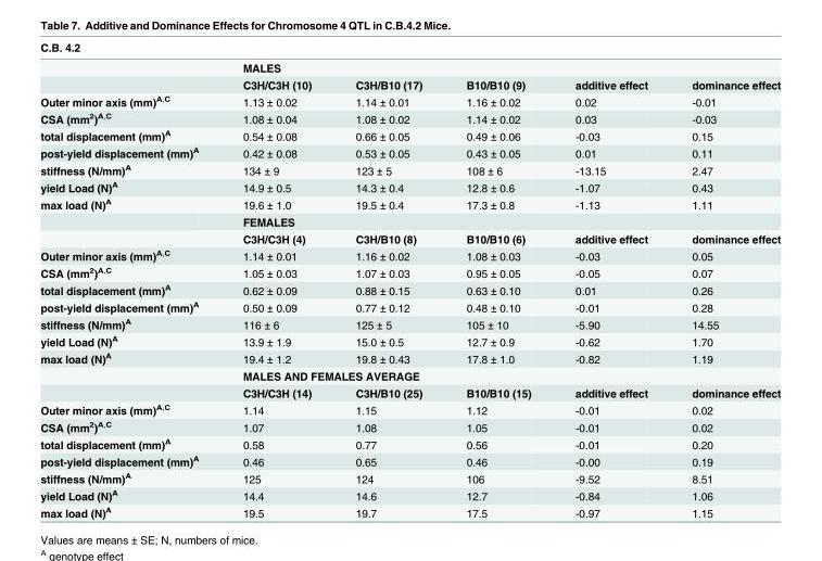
<table><thead><tr><td colspan="6">C.B. 4.2</td></tr><tr><td rowspan="2"></td><td colspan="5">MALES</td></tr><tr><td>C3H/C3H (10)</td><td>C3H/B10 (17)</td><td>B10/B10 (9)</td><td>additive effect</td><td>dominance effect</td></tr></thead><tbody><tr><td>Outer minor axis (mm)<sup>A,C</sup></td><td>1.13 ± 0.02</td><td>1.14 ± 0.01</td><td>1.16 ± 0.02</td><td>0.02</td><td>-0.01</td></tr><tr><td>CSA (mm<sup>2</sup>)<sup>A,C</sup></td><td>1.08 ± 0.04</td><td>1.08 ± 0.02</td><td>1.14 ± 0.02</td><td>0.03</td><td>-0.03</td></tr><tr><td>total displacement (mm)<sup>A</sup></td><td>0.54 ± 0.08</td><td>0.66 ± 0.05</td><td>0.49 ± 0.06</td><td>-0.03</td><td>0.15</td></tr><tr><td>post-yield displacement (mm)<sup>A</sup></td><td>0.42 ± 0.08</td><td>0.53 ± 0.05</td><td>0.43 ± 0.05</td><td>0.01</td><td>0.11</td></tr><tr><td>stiffness (N/mm)<sup>A</sup></td><td>134 ± 9</td><td>123 ± 5</td><td>108 ± 6</td><td>-13.15</td><td>2.47</td></tr><tr><td>yield Load (N)<sup>A</sup></td><td>14.9 ± 0.5</td><td>14.3 ± 0.4</td><td>12.8 ± 0.6</td><td>-1.07</td><td>0.43</td></tr><tr><td rowspan="3">max load (N)<sup>A</sup></td><td>19.6 ± 1.0</td><td>19.5 ± 0.4</td><td>17.3 ± 0.8</td><td>-1.13</td><td>1.11</td></tr><tr><td colspan="5">FEMALES</td></tr><tr><td>C3H/C3H (4)</td><td>C3H/B10 (8)</td><td>B10/B10 (6)</td><td>additive effect</td><td>dominance effect</td></tr><tr><td>Outer minor axis (mm)<sup>A,C</sup></td><td>1.14 ± 0.01</td><td>1.16 ± 0.02</td><td>1.08 ± 0.03</td><td>-0.03</td><td>0.05</td></tr><tr><td>CSA (mm<sup>2</sup>)<sup>A,C</sup></td><td>1.05 ± 0.03</td><td>1.07 ± 0.03</td><td>0.95 ± 0.05</td><td>-0.05</td><td>0.07</td></tr><tr><td>total displacement (mm)<sup>A</sup></td><td>0.62 ± 0.09</td><td>0.88 ± 0.15</td><td>0.63 ± 0.10</td><td>0.01</td><td>0.26</td></tr><tr><td>post-yield displacement (mm)<sup>A</sup></td><td>0.50 ± 0.09</td><td>0.77 ± 0.12</td><td>0.48 ± 0.10</td><td>-0.01</td><td>0.28</td></tr><tr><td>stiffness (N/mm)<sup>A</sup></td><td>116 ± 6</td><td>125 ± 5</td><td>105 ± 10</td><td>-5.90</td><td>14.55</td></tr><tr><td>yield Load (N)<sup>A</sup></td><td>13.9 ± 1.9</td><td>15.0 ± 0.5</td><td>12.7 ± 0.9</td><td>-0.62</td><td>1.70</td></tr><tr><td rowspan="3">max load (N)<sup>A</sup></td><td>19.4 ± 1.2</td><td>19.8 ± 0.43</td><td>17.8 ± 1.0</td><td>-0.82</td><td>1.19</td></tr><tr><td colspan="5">MALES AND FEMALES AVERAGE</td></tr><tr><td>C3H/C3H (14)</td><td>C3H/B10 (25)</td><td>B10/B10 (15)</td><td>additive effect</td><td>dominance effect</td></tr><tr><td>Outer minor axis (mm)<sup>A,C</sup></td><td>1.14</td><td>1.15</td><td>1.12</td><td>-0.01</td><td>0.02</td></tr><tr><td>CSA (mm<sup>2</sup>)<sup>A,C</sup></td><td>1.07</td><td>1.08</td><td>1.05</td><td>-0.01</td><td>0.02</td></tr><tr><td>total displacement (mm)<sup>A</sup></td><td>0.58</td><td>0.77</td><td>0.56</td><td>-0.01</td><td>0.20</td></tr><tr><td>post-yield displacement (mm)<sup>A</sup></td><td>0.46</td><td>0.65</td><td>0.46</td><td>-0.00</td><td>0.19</td></tr><tr><td>stiffness (N/mm)<sup>A</sup></td><td>125</td><td>124</td><td>106</td><td>-9.52</td><td>8.51</td></tr><tr><td>yield Load (N)<sup>A</sup></td><td>14.4</td><td>14.6</td><td>12.7</td><td>-0.84</td><td>1.06</td></tr><tr><td>max load (N)<sup>A</sup></td><td>19.5</td><td>19.7</td><td>17.5</td><td>-0.97</td><td>1.15</td></tr></tbody></table>